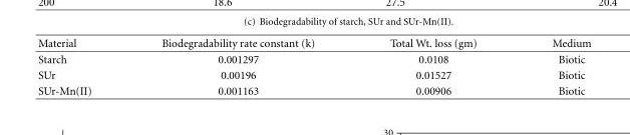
<table><thead><tr><td>Material</td><td>Biodegradability rate constant (k)</td><td>Total Wt. loss (gm)</td><td>Medium</td></tr></thead><tbody><tr><td>Starch</td><td>0.001297</td><td>0.0108</td><td>Biotic</td></tr><tr><td>SUr</td><td>0.00196</td><td>0.01527</td><td>Biotic</td></tr><tr><td>SUr-Mn(II)</td><td>0.001163</td><td>0.00906</td><td>Biotic</td></tr></tbody></table>